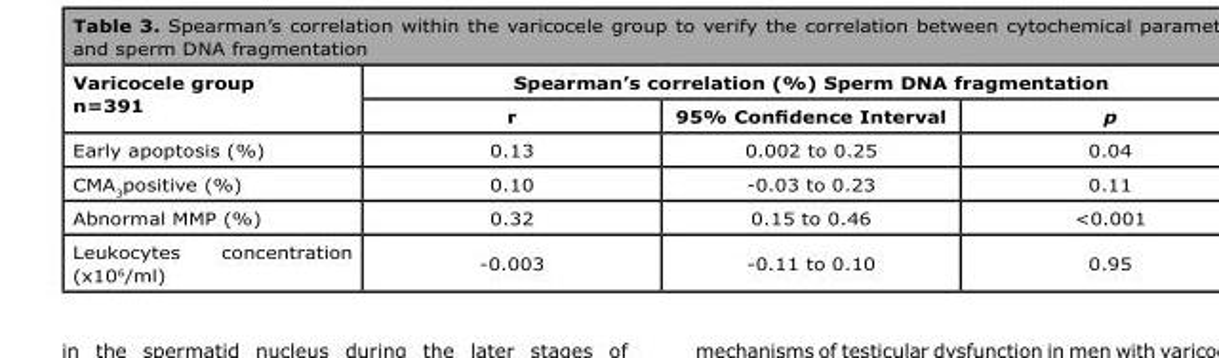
<table><thead><tr><td rowspan="2">Varicocele group n=391</td><td colspan="3">Spearman’s correlation (%) Sperm DNA fragmentation</td></tr><tr><td>r</td><td>95% Confidence Interval</td><td>p</td></tr></thead><tbody><tr><td>Early apoptosis (%)</td><td>0.13</td><td>0.002 to 0.25</td><td>0.04</td></tr><tr><td>CMA<sub>3</sub>positive (%)</td><td>0.10</td><td>-0.03 to 0.23</td><td>0.11</td></tr><tr><td>Abnormal MMP (%)</td><td>0.32</td><td>0.15 to 0.46</td><td>&lt;0.001</td></tr><tr><td>Leukocytes concentration (x10<sup>6</sup>/ml)</td><td>-0.003</td><td>-0.11 to 0.10</td><td>0.95</td></tr></tbody></table>